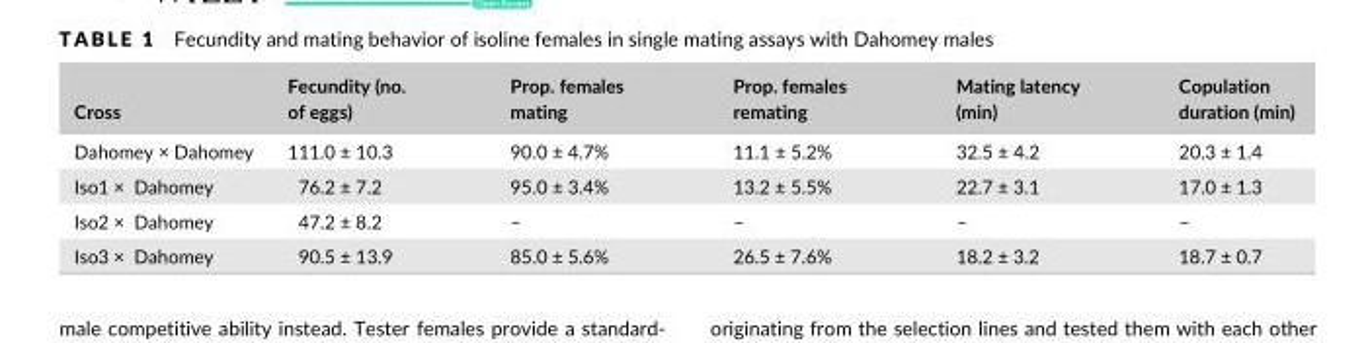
<table><thead><tr><td>Cross</td><td>Fecundity (no. of eggs)</td><td>Prop. females mating</td><td>Prop. females remating</td><td>Mating latency (min)</td><td>Copulation duration (min)</td></tr></thead><tbody><tr><td>Dahomey × Dahomey</td><td>111.0 ± 10.3</td><td>90.0 ± 4.7%</td><td>11.1 ± 5.2%</td><td>32.5 ± 4.2</td><td>20.3 ± 1.4</td></tr><tr><td>Iso1 × Dahomey</td><td>76.2 ± 7.2</td><td>95.0 ± 3.4%</td><td>13.2 ± 5.5%</td><td>22.7 ± 3.1</td><td>17.0 ± 1.3</td></tr><tr><td>Iso2 × Dahomey</td><td>47.2 ± 8.2</td><td>–</td><td>–</td><td>–</td><td>–</td></tr><tr><td>Iso3 × Dahomey</td><td>90.5 ± 13.9</td><td>85.0 ± 5.6%</td><td>26.5 ± 7.6%</td><td>18.2 ± 3.2</td><td>18.7 ± 0.7</td></tr></tbody></table>